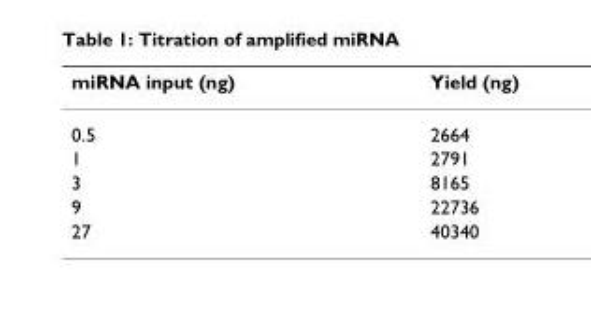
<table><thead><tr><td>miRNA input (ng)</td><td>Yield (ng)</td></tr></thead><tbody><tr><td>0.5</td><td>2664</td></tr><tr><td>1</td><td>2791</td></tr><tr><td>3</td><td>8165</td></tr><tr><td>9</td><td>22736</td></tr><tr><td>27</td><td>40340</td></tr></tbody></table>